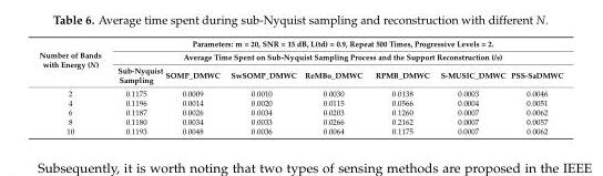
<table><thead><tr><td rowspan="3">Number of Bands with Energy (N)</td><td rowspan="2" colspan="7">Parameters: m = 20, SNR = 15 dB, L(td) = 0.9, Repeat 500 Times, Progressive Levels = 2. Average Time Spent on Sub-Nyquist Sampling Process and the Support Reconstruction (/s)</td></tr><tr></tr><tr><td>Sub-Nyquist Sampling</td><td>SOMP_DMWC</td><td>SwSOMP_DMWC</td><td>ReMBo_DMWC</td><td>RPMB_DMWC</td><td>S-MUSIC_DMWC</td><td>PSS-SaDMWC</td></tr></thead><tbody><tr><td>2</td><td>0.1175</td><td>0.0009</td><td>0.0010</td><td>0.0030</td><td>0.0138</td><td>0.0003</td><td>0.0046</td></tr><tr><td>4</td><td>0.1196</td><td>0.0014</td><td>0.0020</td><td>0.0115</td><td>0.0566</td><td>0.0004</td><td>0.0051</td></tr><tr><td>6</td><td>0.1187</td><td>0.0026</td><td>0.0034</td><td>0.0203</td><td>0.1260</td><td>0.0007</td><td>0.0062</td></tr><tr><td>8</td><td>0.1180</td><td>0.0034</td><td>0.0033</td><td>0.0266</td><td>0.2162</td><td>0.0007</td><td>0.0057</td></tr><tr><td>10</td><td>0.1193</td><td>0.0048</td><td>0.0036</td><td>0.0064</td><td>0.1175</td><td>0.0007</td><td>0.0062</td></tr></tbody></table>